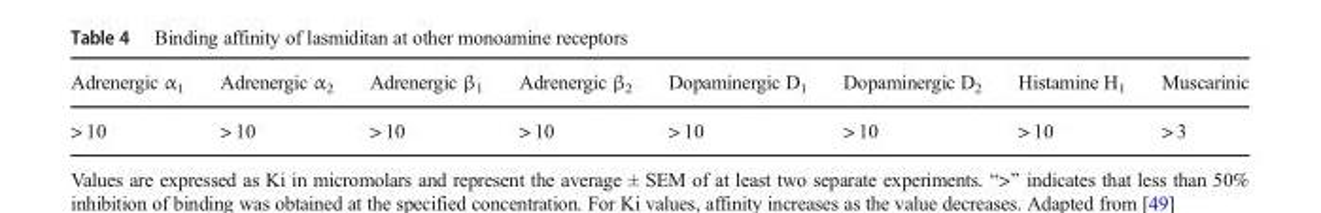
<table><thead><tr><td>Adrenergic α<sub>1</sub></td><td>Adrenergic α<sub>2</sub></td><td>Adrenergic β<sub>1</sub></td><td>Adrenergic β<sub>2</sub></td><td>Dopaminergic D<sub>1</sub></td><td>Dopaminergic D<sub>2</sub></td><td>Histamine H<sub>1</sub></td><td>Muscarinic</td></tr></thead><tbody><tr><td>&gt; 10</td><td>&gt; 10</td><td>&gt; 10</td><td>&gt; 10</td><td>&gt; 10</td><td>&gt; 10</td><td>&gt; 10</td><td>&gt; 3</td></tr></tbody></table>